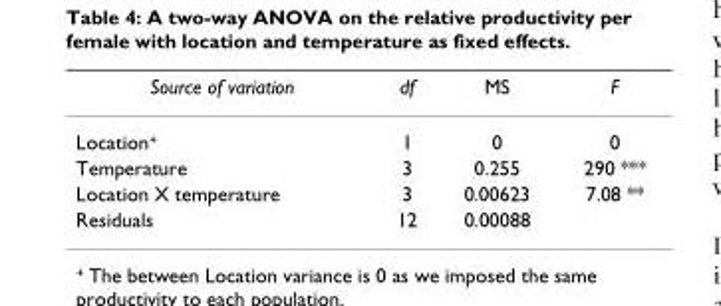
<table><thead><tr><td>Source of variation</td><td>df</td><td>MS</td><td>F</td></tr></thead><tbody><tr><td>Location<sup>+</sup></td><td>1</td><td>0</td><td>0</td></tr><tr><td>Temperature</td><td>3</td><td>0.255</td><td>290 ***</td></tr><tr><td>Location X temperature</td><td>3</td><td>0.00623</td><td>7.08 **</td></tr><tr><td>Residuals</td><td>12</td><td>0.00088</td><td></td></tr></tbody></table>